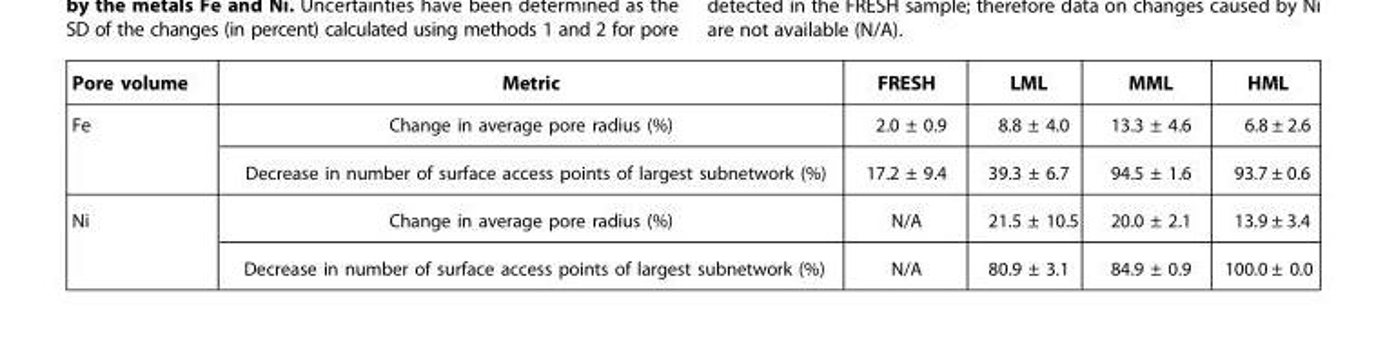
<table><thead><tr><td>Pore volume</td><td>Metric</td><td>FRESH</td><td>LML</td><td>MML</td><td>HML</td></tr></thead><tbody><tr><td rowspan="2">Fe</td><td>Change in average pore radius (%)</td><td>2.0 ± 0.9</td><td>8.8 ± 4.0</td><td>13.3 ± 4.6</td><td>6.8 ± 2.6</td></tr><tr><td>Decrease in number of surface access points of largest subnetwork (%)</td><td>17.2 ± 9.4</td><td>39.3 ± 6.7</td><td>94.5 ± 1.6</td><td>93.7 ± 0.6</td></tr><tr><td rowspan="2">Ni</td><td>Change in average pore radius (%)</td><td>N/A</td><td>21.5 ± 10.5</td><td>20.0 ± 2.1</td><td>13.9 ± 3.4</td></tr><tr><td>Decrease in number of surface access points of largest subnetwork (%)</td><td>N/A</td><td>80.9 ± 3.1</td><td>84.9 ± 0.9</td><td>100.0 ± 0.0</td></tr></tbody></table>